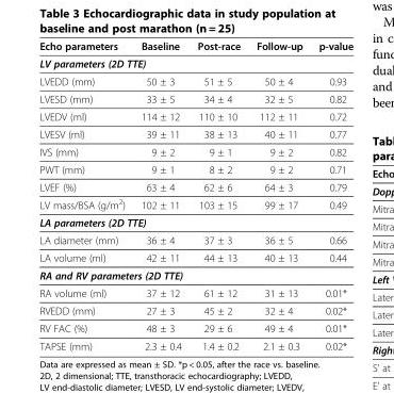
<table><thead><tr><td>Echo parameters</td><td>Baseline</td><td>Post-race</td><td>Follow-up</td><td>p-value</td></tr></thead><tbody><tr><td colspan="5">LV parameters (2D TTE)</td></tr><tr><td>LVEDD (mm)</td><td>50 ± 3</td><td>51 ± 5</td><td>50 ± 4</td><td>0.93</td></tr><tr><td>LVESD (mm)</td><td>33 ± 5</td><td>34 ± 4</td><td>32 ± 5</td><td>0.82</td></tr><tr><td>LVEDV (ml)</td><td>114 ± 12</td><td>110 ± 10</td><td>112 ± 11</td><td>0.72</td></tr><tr><td>LVESV (ml)</td><td>39 ± 11</td><td>38 ± 13</td><td>40 ± 11</td><td>0.77</td></tr><tr><td>IVS (mm)</td><td>9 ± 2</td><td>9 ± 1</td><td>9 ± 2</td><td>0.82</td></tr><tr><td>PWT (mm)</td><td>9 ± 1</td><td>8 ± 2</td><td>9 ± 2</td><td>0.71</td></tr><tr><td>LVEF (%)</td><td>63 ± 4</td><td>62 ± 6</td><td>64 ± 3</td><td>0.79</td></tr><tr><td>LV mass/BSA (g/m<sup>2</sup>)</td><td>102 ± 11</td><td>103 ± 15</td><td>99 ± 17</td><td>0.49</td></tr><tr><td colspan="5">LA parameters (2D TTE)</td></tr><tr><td>LA diameter (mm)</td><td>36 ± 4</td><td>37 ± 3</td><td>36 ± 5</td><td>0.66</td></tr><tr><td>LA volume (ml)</td><td>42 ± 11</td><td>44 ± 13</td><td>40 ± 13</td><td>0.44</td></tr><tr><td colspan="5">RA and RV parameters (2D TTE)</td></tr><tr><td>RA volume (ml)</td><td>37 ± 12</td><td>61 ± 12</td><td>31 ± 13</td><td>0.01*</td></tr><tr><td>RVEDD (mm)</td><td>27 ± 3</td><td>45 ± 2</td><td>32 ± 4</td><td>0.02*</td></tr><tr><td>RV FAC (%)</td><td>48 ± 3</td><td>29 ± 6</td><td>49 ± 4</td><td>0.01*</td></tr><tr><td>TAPSE (mm)</td><td>2.3 ± 0.4</td><td>1.4 ± 0.2</td><td>2.1 ± 0.3</td><td>0.02*</td></tr></tbody></table>